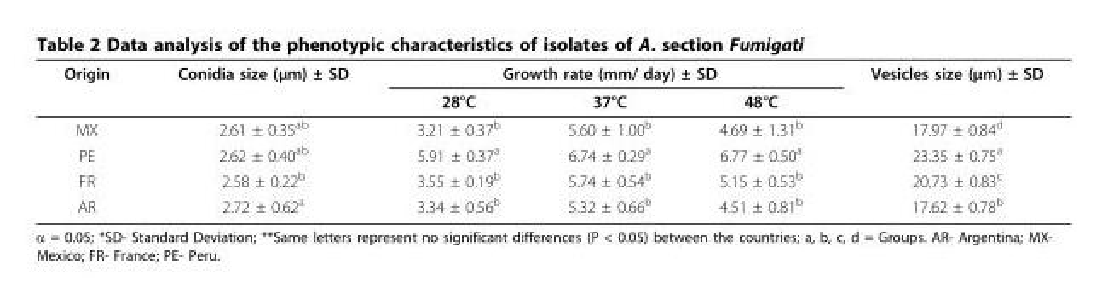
<table><thead><tr><td rowspan="2">Origin</td><td rowspan="2">Conidia size (μm) ± SD</td><td colspan="3">Growth rate (mm/ day) ± SD</td><td rowspan="2">Vesicles size (μm) ± SD</td></tr><tr><td>28°C</td><td>37°C</td><td>48°C</td></tr></thead><tbody><tr><td>MX</td><td>2.61 ± 0.35<sup>ab</sup></td><td>3.21 ± 0.37<sup>b</sup></td><td>5.60 ± 1.00<sup>b</sup></td><td>4.69 ± 1.31<sup>b</sup></td><td>17.97 ± 0.84<sup>d</sup></td></tr><tr><td>PE</td><td>2.62 ± 0.40<sup>ab</sup></td><td>5.91 ± 0.37<sup>a</sup></td><td>6.74 ± 0.29<sup>a</sup></td><td>6.77 ± 0.50<sup>a</sup></td><td>23.35 ± 0.75<sup>a</sup></td></tr><tr><td>FR</td><td>2.58 ± 0.22<sup>b</sup></td><td>3.55 ± 0.19<sup>b</sup></td><td>5.74 ± 0.54<sup>b</sup></td><td>5.15 ± 0.53<sup>b</sup></td><td>20.73 ± 0.83<sup>c</sup></td></tr><tr><td>AR</td><td>2.72 ± 0.62<sup>a</sup></td><td>3.34 ± 0.56<sup>b</sup></td><td>5.32 ± 0.66<sup>b</sup></td><td>4.51 ± 0.81<sup>b</sup></td><td>17.62 ± 0.78<sup>b</sup></td></tr></tbody></table>